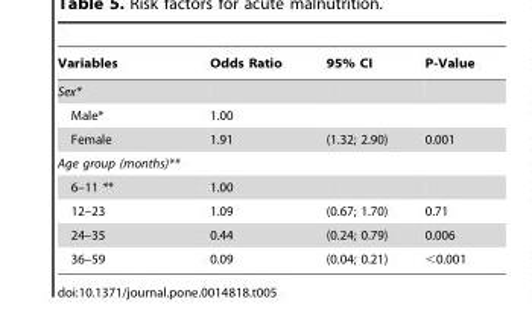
<table><thead><tr><td>Variables</td><td>Odds Ratio</td><td>95% CI</td><td>P-Value</td></tr></thead><tbody><tr><td colspan="4">Sex*</td></tr><tr><td>Male*</td><td>1.00</td><td></td><td></td></tr><tr><td>Female</td><td>1.91</td><td>(1.32; 2.90)</td><td>0.001</td></tr><tr><td colspan="4">Age group (months)**</td></tr><tr><td>6–11 **</td><td>1.00</td><td></td><td></td></tr><tr><td>12–23</td><td>1.09</td><td>(0.67; 1.70)</td><td>0.71</td></tr><tr><td>24–35</td><td>0.44</td><td>(0.24; 0.79)</td><td>0.006</td></tr><tr><td>36–59</td><td>0.09</td><td>(0.04; 0.21)</td><td>&lt;0.001</td></tr></tbody></table>